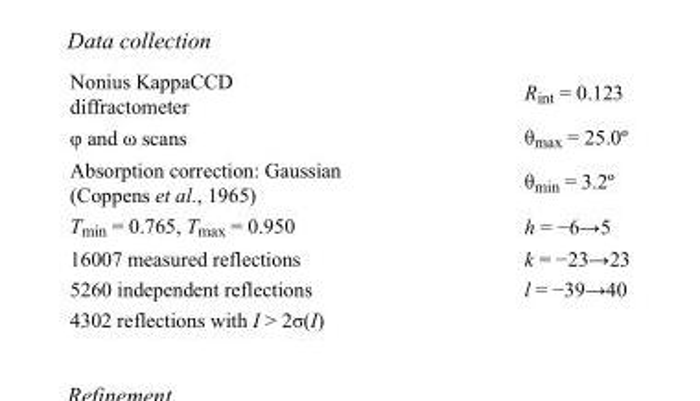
<table><tbody><tr><td>Nonius KappaCCD diffractometer</td><td>R<sub>int</sub> = 0.123</td></tr><tr><td>φ and ω scans</td><td>θ<sub>max</sub> = 25.0º</td></tr><tr><td>Absorption correction: Gaussian (Coppens et al., 1965)</td><td>θ<sub>min</sub> = 3.2º</td></tr><tr><td>T<sub>min</sub> = 0.765, T<sub>max</sub> = 0.950</td><td>h = −6→5</td></tr><tr><td>16007 measured reflections</td><td>k = −23→23</td></tr><tr><td>5260 independent reflections</td><td>l = −39→40</td></tr><tr><td>4302 reflections with I &gt; 2σ(I)</td><td></td></tr></tbody></table>